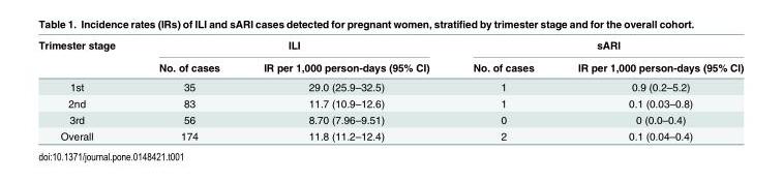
<table><thead><tr><td rowspan="2">Trimester stage</td><td colspan="2">ILI</td><td colspan="2">sARI</td></tr><tr><td>No. of cases</td><td>IR per 1,000 person-days (95% CI)</td><td>No. of cases</td><td>IR per 1,000 person-days (95% CI)</td></tr></thead><tbody><tr><td>1st</td><td>35</td><td>29.0 (25.9–32.5)</td><td>1</td><td>0.9 (0.2–5.2)</td></tr><tr><td>2nd</td><td>83</td><td>11.7 (10.9–12.6)</td><td>1</td><td>0.1 (0.03–0.8)</td></tr><tr><td>3rd</td><td>56</td><td>8.70 (7.96–9.51)</td><td>0</td><td>0 (0.0–0.4)</td></tr><tr><td>Overall</td><td>174</td><td>11.8 (11.2–12.4)</td><td>2</td><td>0.1 (0.04–0.4)</td></tr></tbody></table>